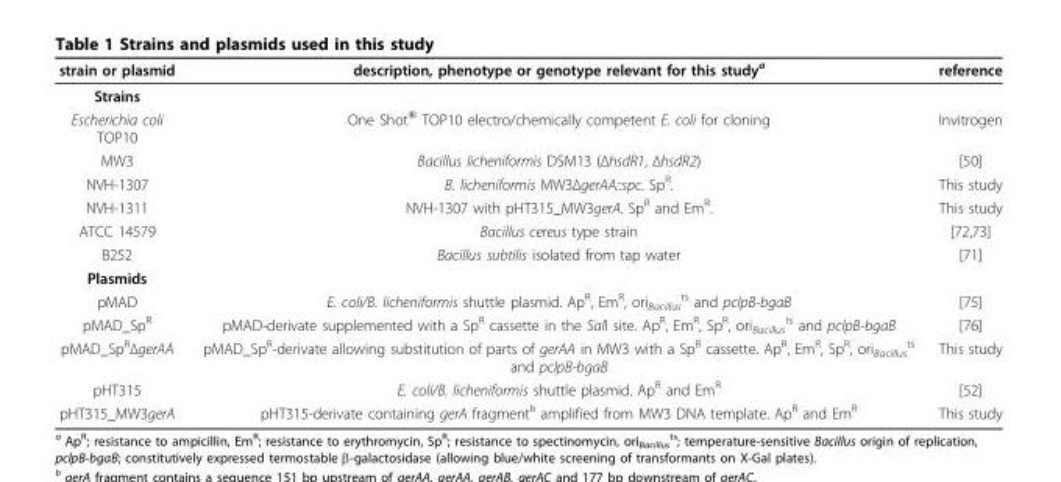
<table><thead><tr><td>strain or plasmid</td><td>description, phenotype or genotype relevant for this study<sup>a</sup></td><td>reference</td></tr></thead><tbody><tr><td colspan="3">Strains</td></tr><tr><td>Escherichia coli TOP10</td><td>One Shot<sup>®</sup> TOP10 electro/chemically competent E. coli for cloning</td><td>Invitrogen</td></tr><tr><td>MW3</td><td>Bacillus licheniformis DSM13 (ΔhsdR1, ΔhsdR2)</td><td>[50]</td></tr><tr><td>NVH-1307</td><td>B. licheniformis MW3ΔgerAA::spc. Sp<sup>R</sup>.</td><td>This study</td></tr><tr><td>NVH-1311</td><td>NVH-1307 with pHT315_MW3gerA. Sp<sup>R</sup> and Em<sup>R</sup>.</td><td>This study</td></tr><tr><td>ATCC 14579</td><td>Bacillus cereus type strain</td><td>[72,73]</td></tr><tr><td>B252</td><td>Bacillus subtilis isolated from tap water</td><td>[71]</td></tr><tr><td colspan="3">Plasmids</td></tr><tr><td>pMAD</td><td>E. coli/B. licheniformis shuttle plasmid. Ap<sup>R</sup>, Em<sup>R</sup>, ori<sub>Bacillus</sub> <sup>ts</sup> and pclpB-bgaB</td><td>[75]</td></tr><tr><td>pMAD_Sp<sup>R</sup></td><td>pMAD-derivate supplemented with a Sp<sup>R</sup> cassette in the SalI site. Ap<sup>R</sup>, Em<sup>R</sup>, Sp<sup>R</sup>, ori<sub>Bacillus</sub> <sup>ts</sup> and pclpB-bgaB</td><td>[76]</td></tr><tr><td>pMAD_Sp<sup>R</sup>ΔgerAA</td><td>pMAD_Sp<sup>R</sup>-derivate allowing substitution of parts of gerAA in MW3 with a Sp<sup>R</sup> cassette. Ap<sup>R</sup>, Em<sup>R</sup>, Sp<sup>R</sup>, ori<sub>Bacillus</sub> <sup>ts</sup> and pclpB-bgaB</td><td>This study</td></tr><tr><td>pHT315</td><td>E. coli/B. licheniformis shuttle plasmid. Ap<sup>R</sup> and Em<sup>R</sup></td><td>[52]</td></tr><tr><td>pHT315_MW3gerA</td><td>pHT315-derivate containing gerA fragment<sup>b</sup> amplified from MW3 DNA template. Ap<sup>R</sup> and Em<sup>R</sup></td><td>This study</td></tr></tbody></table>